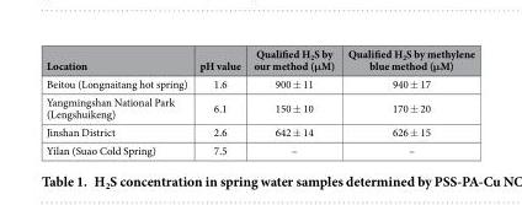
<table><thead><tr><td>Location</td><td>pH value</td><td>Qualified H<sub>2</sub>S by our method (μM)</td><td>Qualified H<sub>2</sub>S by methylene blue method (μM)</td></tr></thead><tbody><tr><td>Beitou (Longnaitang hot spring)</td><td>1.6</td><td>900 ± 11</td><td>940 ± 17</td></tr><tr><td>Yangmingshan National Park (Lengshuikeng)</td><td>6.1</td><td>150 ± 10</td><td>170 ± 20</td></tr><tr><td>Jinshan District</td><td>2.6</td><td>642 ± 14</td><td>626 ± 15</td></tr><tr><td>Yilan (Suao Cold Spring)</td><td>7.5</td><td>–</td><td>–</td></tr></tbody></table>